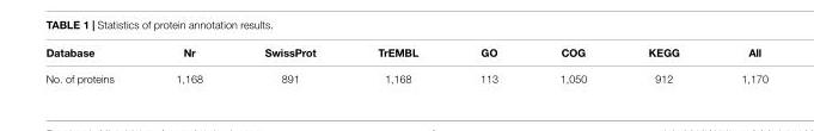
<table><thead><tr><td>Database</td><td>Nr</td><td>SwissProt</td><td>TrEMBL</td><td>GO</td><td>COG</td><td>KEGG</td><td>All</td></tr></thead><tbody><tr><td>No. of proteins</td><td>1,168</td><td>891</td><td>1,168</td><td>113</td><td>1,050</td><td>912</td><td>1,170</td></tr></tbody></table>